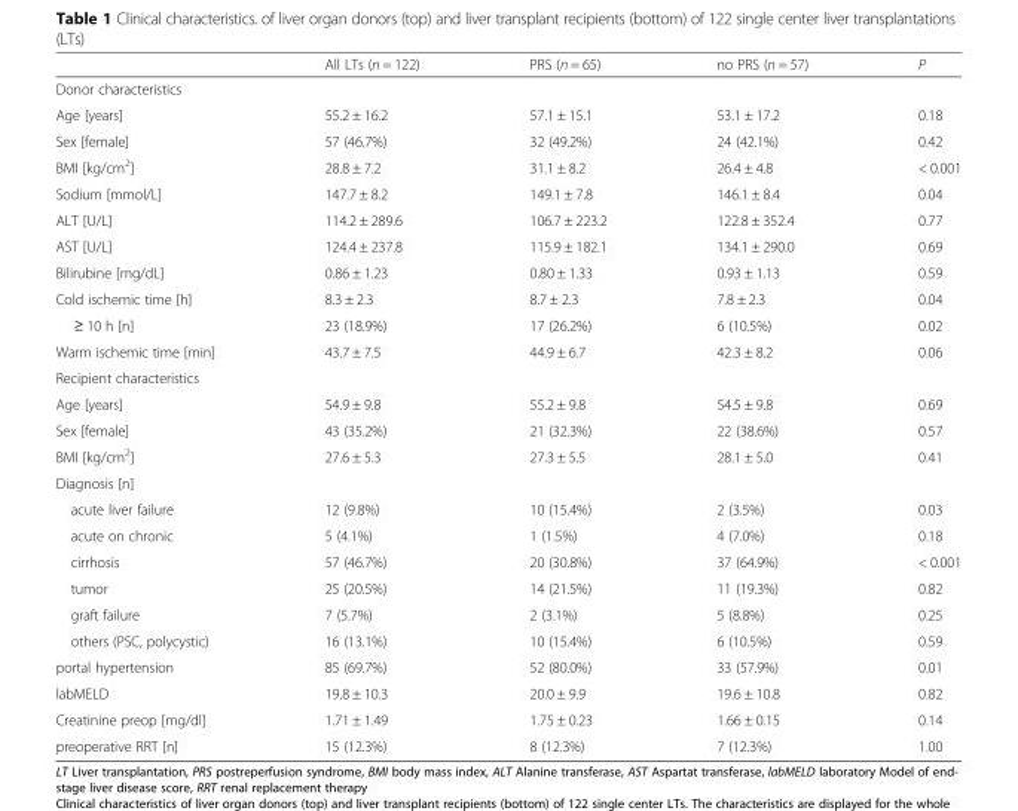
<table><thead><tr><td></td><td>All LTs (n = 122)</td><td>PRS (n = 65)</td><td>no PRS (n = 57)</td><td>P</td></tr></thead><tbody><tr><td colspan="5">Donor characteristics</td></tr><tr><td>Age [years]</td><td>55.2 ± 16.2</td><td>57.1 ± 15.1</td><td>53.1 ± 17.2</td><td>0.18</td></tr><tr><td>Sex [female]</td><td>57 (46.7%)</td><td>32 (49.2%)</td><td>24 (42.1%)</td><td>0.42</td></tr><tr><td>BMI [kg/cm<sup>2</sup>]</td><td>28.8 ± 7.2</td><td>31.1 ± 8.2</td><td>26.4 ± 4.8</td><td>&lt; 0.001</td></tr><tr><td>Sodium [mmol/L]</td><td>147.7 ± 8.2</td><td>149.1 ± 7.8</td><td>146.1 ± 8.4</td><td>0.04</td></tr><tr><td>ALT [U/L]</td><td>114.2 ± 289.6</td><td>106.7 ± 223.2</td><td>122.8 ± 352.4</td><td>0.77</td></tr><tr><td>AST [U/L]</td><td>124.4 ± 237.8</td><td>115.9 ± 182.1</td><td>134.1 ± 290.0</td><td>0.69</td></tr><tr><td>Bilirubine [mg/dL]</td><td>0.86 ± 1.23</td><td>0.80 ± 1.33</td><td>0.93 ± 1.13</td><td>0.59</td></tr><tr><td>Cold ischemic time [h]</td><td>8.3 ± 2.3</td><td>8.7 ± 2.3</td><td>7.8 ± 2.3</td><td>0.04</td></tr><tr><td>≥ 10 h [n]</td><td>23 (18.9%)</td><td>17 (26.2%)</td><td>6 (10.5%)</td><td>0.02</td></tr><tr><td>Warm ischemic time [min]</td><td>43.7 ± 7.5</td><td>44.9 ± 6.7</td><td>42.3 ± 8.2</td><td>0.06</td></tr><tr><td colspan="5">Recipient characteristics</td></tr><tr><td>Age [years]</td><td>54.9 ± 9.8</td><td>55.2 ± 9.8</td><td>54.5 ± 9.8</td><td>0.69</td></tr><tr><td>Sex [female]</td><td>43 (35.2%)</td><td>21 (32.3%)</td><td>22 (38.6%)</td><td>0.57</td></tr><tr><td>BMI [kg/cm<sup>2</sup>]</td><td>27.6 ± 5.3</td><td>27.3 ± 5.5</td><td>28.1 ± 5.0</td><td>0.41</td></tr><tr><td colspan="5">Diagnosis [n]</td></tr><tr><td>acute liver failure</td><td>12 (9.8%)</td><td>10 (15.4%)</td><td>2 (3.5%)</td><td>0.03</td></tr><tr><td>acute on chronic</td><td>5 (4.1%)</td><td>1 (1.5%)</td><td>4 (7.0%)</td><td>0.18</td></tr><tr><td>cirrhosis</td><td>57 (46.7%)</td><td>20 (30.8%)</td><td>37 (64.9%)</td><td>&lt; 0.001</td></tr><tr><td>tumor</td><td>25 (20.5%)</td><td>14 (21.5%)</td><td>11 (19.3%)</td><td>0.82</td></tr><tr><td>graft failure</td><td>7 (5.7%)</td><td>2 (3.1%)</td><td>5 (8.8%)</td><td>0.25</td></tr><tr><td>others (PSC, polycystic)</td><td>16 (13.1%)</td><td>10 (15.4%)</td><td>6 (10.5%)</td><td>0.59</td></tr><tr><td>portal hypertension</td><td>85 (69.7%)</td><td>52 (80.0%)</td><td>33 (57.9%)</td><td>0.01</td></tr><tr><td>labMELD</td><td>19.8 ± 10.3</td><td>20.0 ± 9.9</td><td>19.6 ± 10.8</td><td>0.82</td></tr><tr><td>Creatinine preop [mg/dl]</td><td>1.71 ± 1.49</td><td>1.75 ± 0.23</td><td>1.66 ± 0.15</td><td>0.14</td></tr><tr><td>preoperative RRT [n]</td><td>15 (12.3%)</td><td>8 (12.3%)</td><td>7 (12.3%)</td><td>1.00</td></tr></tbody></table>